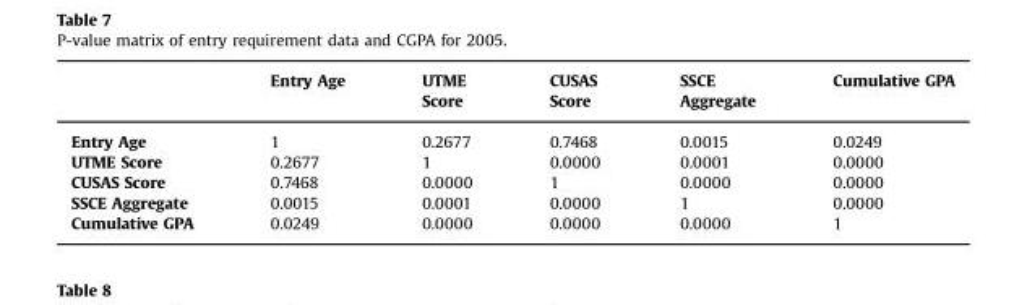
<table><thead><tr><td></td><td>Entry Age</td><td>UTME Score</td><td>CUSAS Score</td><td>SSCE Aggregate</td><td>Cumulative GPA</td></tr></thead><tbody><tr><td>Entry Age</td><td>1</td><td>0.2677</td><td>0.7468</td><td>0.0015</td><td>0.0249</td></tr><tr><td>UTME Score</td><td>0.2677</td><td>1</td><td>0.0000</td><td>0.0001</td><td>0.0000</td></tr><tr><td>CUSAS Score</td><td>0.7468</td><td>0.0000</td><td>1</td><td>0.0000</td><td>0.0000</td></tr><tr><td>SSCE Aggregate</td><td>0.0015</td><td>0.0001</td><td>0.0000</td><td>1</td><td>0.0000</td></tr><tr><td>Cumulative GPA</td><td>0.0249</td><td>0.0000</td><td>0.0000</td><td>0.0000</td><td>1</td></tr></tbody></table>